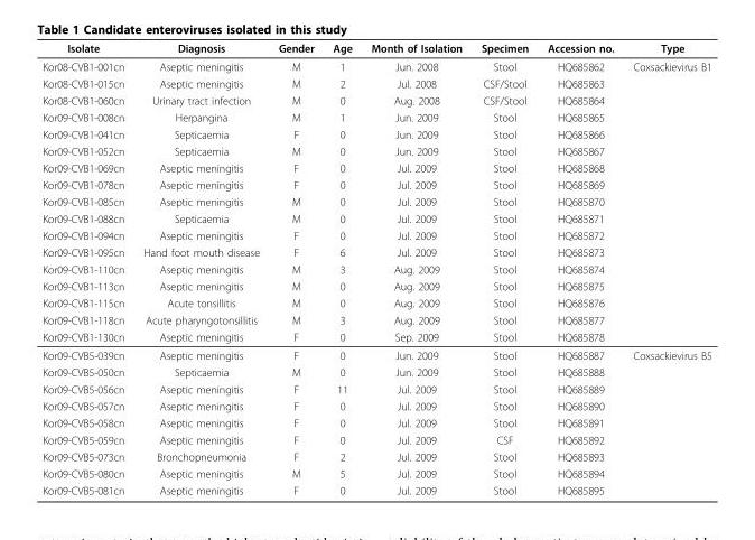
<table><thead><tr><td>Isolate</td><td>Diagnosis</td><td>Gender</td><td>Age</td><td>Month of Isolation</td><td>Specimen</td><td>Accession no.</td><td>Type</td></tr></thead><tbody><tr><td>Kor08-CVB1-001cn</td><td>Aseptic meningitis</td><td>M</td><td>1</td><td>Jun. 2008</td><td>Stool</td><td>HQ685862</td><td>Coxsackievirus B1</td></tr><tr><td>Kor08-CVB1-015cn</td><td>Aseptic meningitis</td><td>M</td><td>2</td><td>Jul. 2008</td><td>CSF/Stool</td><td>HQ685863</td><td></td></tr><tr><td>Kor08-CVB1-060cn</td><td>Urinary tract infection</td><td>M</td><td>0</td><td>Aug. 2008</td><td>CSF/Stool</td><td>HQ685864</td><td></td></tr><tr><td>Kor09-CVB1-008cn</td><td>Herpangina</td><td>M</td><td>1</td><td>Jun. 2009</td><td>Stool</td><td>HQ685865</td><td></td></tr><tr><td>Kor09-CVB1-041cn</td><td>Septicaemia</td><td>F</td><td>0</td><td>Jun. 2009</td><td>Stool</td><td>HQ685866</td><td></td></tr><tr><td>Kor09-CVB1-052cn</td><td>Septicaemia</td><td>M</td><td>0</td><td>Jun. 2009</td><td>Stool</td><td>HQ685867</td><td></td></tr><tr><td>Kor09-CVB1-069cn</td><td>Aseptic meningitis</td><td>F</td><td>0</td><td>Jul. 2009</td><td>Stool</td><td>HQ685868</td><td></td></tr><tr><td>Kor09-CVB1-078cn</td><td>Aseptic meningitis</td><td>F</td><td>0</td><td>Jul. 2009</td><td>Stool</td><td>HQ685869</td><td></td></tr><tr><td>Kor09-CVB1-085cn</td><td>Aseptic meningitis</td><td>M</td><td>0</td><td>Jul. 2009</td><td>Stool</td><td>HQ685870</td><td></td></tr><tr><td>Kor09-CVB1-088cn</td><td>Septicaemia</td><td>M</td><td>0</td><td>Jul. 2009</td><td>Stool</td><td>HQ685871</td><td></td></tr><tr><td>Kor09-CVB1-094cn</td><td>Aseptic meningitis</td><td>F</td><td>0</td><td>Jul. 2009</td><td>Stool</td><td>HQ685872</td><td></td></tr><tr><td>Kor09-CVB1-095cn</td><td>Hand foot mouth disease</td><td>F</td><td>6</td><td>Jul. 2009</td><td>Stool</td><td>HQ685873</td><td></td></tr><tr><td>Kor09-CVB1-110cn</td><td>Aseptic meningitis</td><td>M</td><td>3</td><td>Aug. 2009</td><td>Stool</td><td>HQ685874</td><td></td></tr><tr><td>Kor09-CVB1-113cn</td><td>Aseptic meningitis</td><td>M</td><td>0</td><td>Aug. 2009</td><td>Stool</td><td>HQ685875</td><td></td></tr><tr><td>Kor09-CVB1-115cn</td><td>Acute tonsillitis</td><td>M</td><td>0</td><td>Aug. 2009</td><td>Stool</td><td>HQ685876</td><td></td></tr><tr><td>Kor09-CVB1-118cn</td><td>Acute pharyngotonsillitis</td><td>M</td><td>3</td><td>Aug. 2009</td><td>Stool</td><td>HQ685877</td><td></td></tr><tr><td>Kor09-CVB1-130cn</td><td>Aseptic meningitis</td><td>F</td><td>0</td><td>Sep. 2009</td><td>Stool</td><td>HQ685878</td><td></td></tr><tr><td>Kor09-CVB5-039cn</td><td>Aseptic meningitis</td><td>F</td><td>0</td><td>Jun. 2009</td><td>Stool</td><td>HQ685887</td><td>Coxsackievirus B5</td></tr><tr><td>Kor09-CVB5-050cn</td><td>Septicaemia</td><td>M</td><td>0</td><td>Jun. 2009</td><td>Stool</td><td>HQ685888</td><td></td></tr><tr><td>Kor09-CVB5-056cn</td><td>Aseptic meningitis</td><td>F</td><td>11</td><td>Jul. 2009</td><td>Stool</td><td>HQ685889</td><td></td></tr><tr><td>Kor09-CVB5-057cn</td><td>Aseptic meningitis</td><td>F</td><td>0</td><td>Jul. 2009</td><td>Stool</td><td>HQ685890</td><td></td></tr><tr><td>Kor09-CVB5-058cn</td><td>Aseptic meningitis</td><td>F</td><td>0</td><td>Jul. 2009</td><td>Stool</td><td>HQ685891</td><td></td></tr><tr><td>Kor09-CVB5-059cn</td><td>Aseptic meningitis</td><td>F</td><td>0</td><td>Jul. 2009</td><td>CSF</td><td>HQ685892</td><td></td></tr><tr><td>Kor09-CVB5-073cn</td><td>Bronchopneumonia</td><td>F</td><td>2</td><td>Jul. 2009</td><td>Stool</td><td>HQ685893</td><td></td></tr><tr><td>Kor09-CVB5-080cn</td><td>Aseptic meningitis</td><td>M</td><td>5</td><td>Jul. 2009</td><td>Stool</td><td>HQ685894</td><td></td></tr><tr><td>Kor09-CVB5-081cn</td><td>Aseptic meningitis</td><td>F</td><td>0</td><td>Jul. 2009</td><td>Stool</td><td>HQ685895</td><td></td></tr></tbody></table>